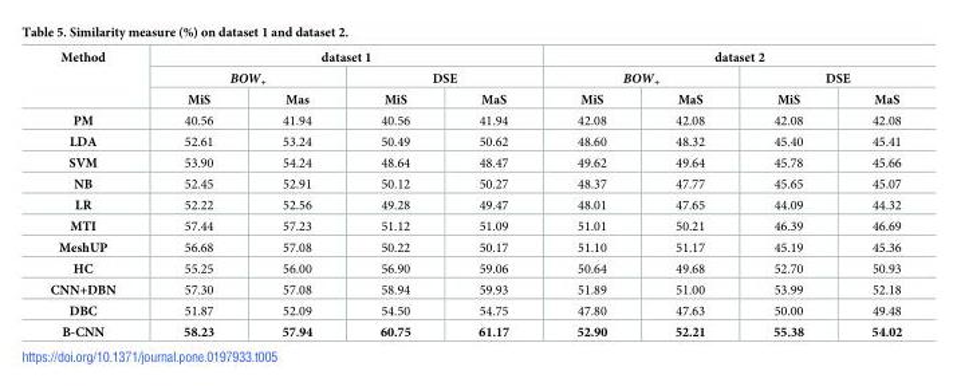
<table><thead><tr><td rowspan="3">Method</td><td colspan="4">dataset 1</td><td colspan="4">dataset 2</td></tr><tr><td colspan="2">BOW<sub>+</sub></td><td colspan="2">DSE</td><td colspan="2">BOW<sub>+</sub></td><td colspan="2">DSE</td></tr><tr><td>MiS</td><td>Mas</td><td>MiS</td><td>MaS</td><td>MiS</td><td>MaS</td><td>MiS</td><td>MaS</td></tr></thead><tbody><tr><td>PM</td><td>40.56</td><td>41.94</td><td>40.56</td><td>41.94</td><td>42.08</td><td>42.08</td><td>42.08</td><td>42.08</td></tr><tr><td>LDA</td><td>52.61</td><td>53.24</td><td>50.49</td><td>50.62</td><td>48.60</td><td>48.32</td><td>45.40</td><td>45.41</td></tr><tr><td>SVM</td><td>53.90</td><td>54.24</td><td>48.64</td><td>48.47</td><td>49.62</td><td>49.64</td><td>45.78</td><td>45.66</td></tr><tr><td>NB</td><td>52.45</td><td>52.91</td><td>50.12</td><td>50.27</td><td>48.37</td><td>47.77</td><td>45.65</td><td>45.07</td></tr><tr><td>LR</td><td>52.22</td><td>52.56</td><td>49.28</td><td>49.47</td><td>48.01</td><td>47.65</td><td>44.09</td><td>44.32</td></tr><tr><td>MTI</td><td>57.44</td><td>57.23</td><td>51.12</td><td>51.09</td><td>51.01</td><td>50.21</td><td>46.39</td><td>46.69</td></tr><tr><td>MeshUP</td><td>56.68</td><td>57.08</td><td>50.22</td><td>50.17</td><td>51.10</td><td>51.17</td><td>45.19</td><td>45.36</td></tr><tr><td>HC</td><td>55.25</td><td>56.00</td><td>56.90</td><td>59.06</td><td>50.64</td><td>49.68</td><td>52.70</td><td>50.93</td></tr><tr><td>CNN+DBN</td><td>57.30</td><td>57.08</td><td>58.94</td><td>59.93</td><td>51.89</td><td>51.00</td><td>53.99</td><td>52.18</td></tr><tr><td>DBC</td><td>51.87</td><td>52.09</td><td>54.50</td><td>54.75</td><td>47.80</td><td>47.63</td><td>50.00</td><td>49.48</td></tr><tr><td>B-CNN</td><td>58.23</td><td>57.94</td><td>60.75</td><td>61.17</td><td>52.90</td><td>52.21</td><td>55.38</td><td>54.02</td></tr></tbody></table>